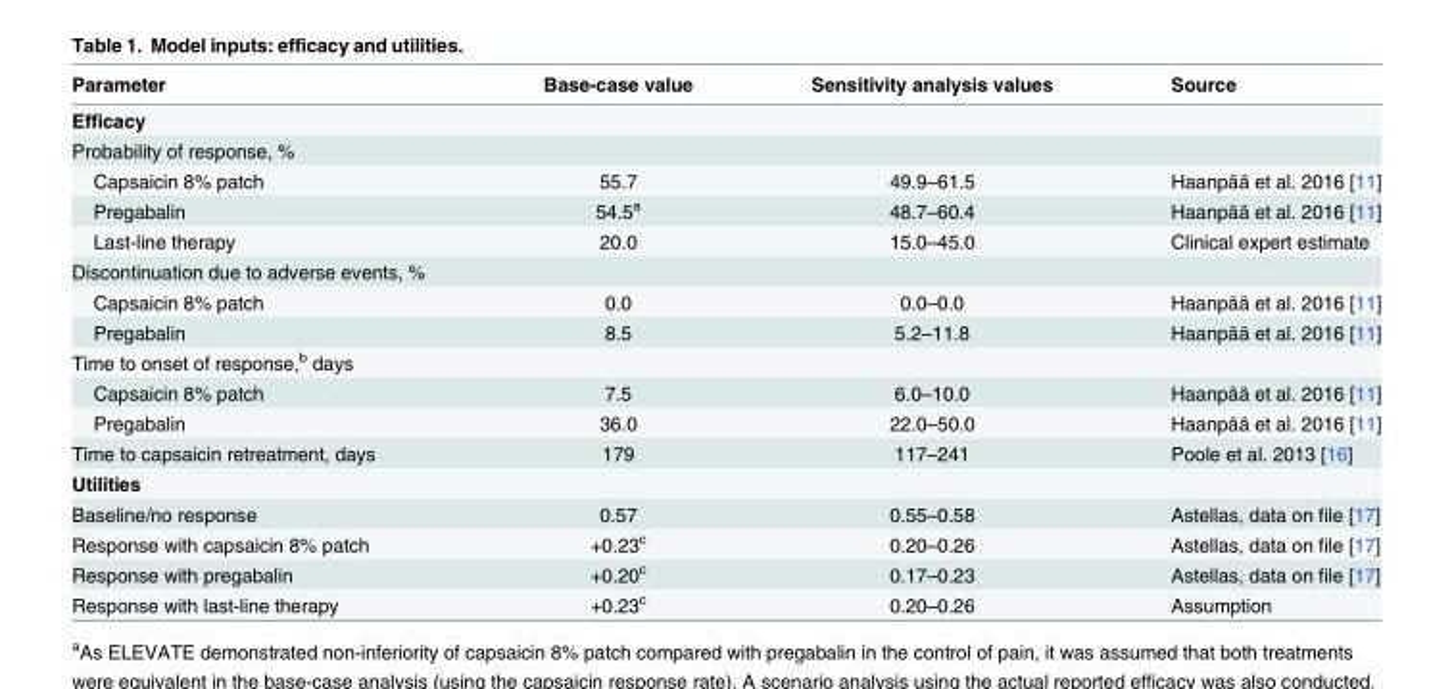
<table><thead><tr><td>Parameter</td><td>Base-case value</td><td>Sensitivity analysis values</td><td>Source</td></tr></thead><tbody><tr><td colspan="4">Efficacy</td></tr><tr><td colspan="4">Probability of response, %</td></tr><tr><td>Capsaicin 8% patch</td><td>55.7</td><td>49.9–61.5</td><td>Haanpää et al. 2016 [11]</td></tr><tr><td>Pregabalin</td><td>54.5<sup>a</sup></td><td>48.7–60.4</td><td>Haanpää et al. 2016 [11]</td></tr><tr><td>Last-line therapy</td><td>20.0</td><td>15.0–45.0</td><td>Clinical expert estimate</td></tr><tr><td colspan="4">Discontinuation due to adverse events, %</td></tr><tr><td>Capsaicin 8% patch</td><td>0.0</td><td>0.0–0.0</td><td>Haanpää et al. 2016 [11]</td></tr><tr><td>Pregabalin</td><td>8.5</td><td>5.2–11.8</td><td>Haanpää et al. 2016 [11]</td></tr><tr><td colspan="4">Time to onset of response,<sup>b</sup> days</td></tr><tr><td>Capsaicin 8% patch</td><td>7.5</td><td>6.0–10.0</td><td>Haanpää et al. 2016 [11]</td></tr><tr><td>Pregabalin</td><td>36.0</td><td>22.0–50.0</td><td>Haanpää et al. 2016 [11]</td></tr><tr><td>Time to capsaicin retreatment, days</td><td>179</td><td>117–241</td><td>Poole et al. 2013 [16]</td></tr><tr><td colspan="4">Utilities</td></tr><tr><td>Baseline/no response</td><td>0.57</td><td>0.55–0.58</td><td>Astellas, data on file [17]</td></tr><tr><td>Response with capsaicin 8% patch</td><td>+0.23<sup>c</sup></td><td>0.20–0.26</td><td>Astellas, data on file [17]</td></tr><tr><td>Response with pregabalin</td><td>+0.20<sup>c</sup></td><td>0.17–0.23</td><td>Astellas, data on file [17]</td></tr><tr><td>Response with last-line therapy</td><td>+0.23<sup>c</sup></td><td>0.20–0.26</td><td>Assumption</td></tr></tbody></table>